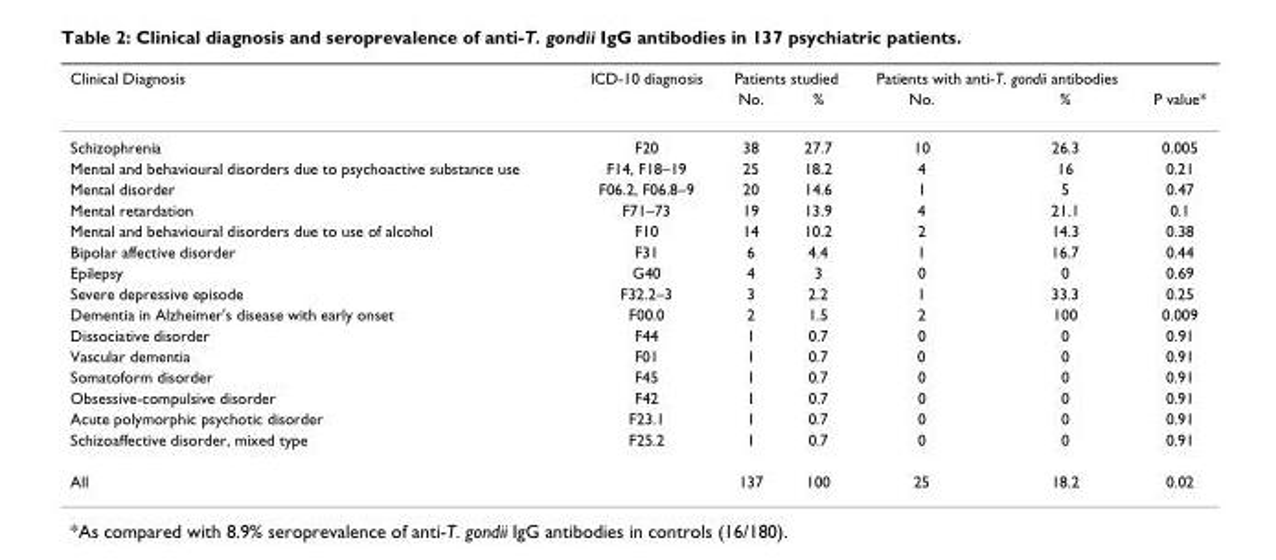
<table><thead><tr><td rowspan="2">Clinical Diagnosis</td><td rowspan="2">ICD-10 diagnosis</td><td colspan="2">Patients studied</td><td colspan="2">Patients with anti-T. gondii antibodies</td><td rowspan="2">P value*</td></tr><tr><td>No.</td><td>%</td><td>No.</td><td>%</td></tr></thead><tbody><tr><td>Schizophrenia</td><td>F20</td><td>38</td><td>27.7</td><td>10</td><td>26.3</td><td>0.005</td></tr><tr><td>Mental and behavioural disorders due to psychoactive substance use</td><td>F14, F18–19</td><td>25</td><td>18.2</td><td>4</td><td>16</td><td>0.21</td></tr><tr><td>Mental disorder</td><td>F06.2, F06.8–9</td><td>20</td><td>14.6</td><td>1</td><td>5</td><td>0.47</td></tr><tr><td>Mental retardation</td><td>F71–73</td><td>19</td><td>13.9</td><td>4</td><td>21.1</td><td>0.1</td></tr><tr><td>Mental and behavioural disorders due to use of alcohol</td><td>F10</td><td>14</td><td>10.2</td><td>2</td><td>14.3</td><td>0.38</td></tr><tr><td>Bipolar affective disorder</td><td>F31</td><td>6</td><td>4.4</td><td>1</td><td>16.7</td><td>0.44</td></tr><tr><td>Epilepsy</td><td>G40</td><td>4</td><td>3</td><td>0</td><td>0</td><td>0.69</td></tr><tr><td>Severe depressive episode</td><td>F32.2–3</td><td>3</td><td>2.2</td><td>1</td><td>33.3</td><td>0.25</td></tr><tr><td>Dementia in Alzheimer&#x27;s disease with early onset</td><td>F00.0</td><td>2</td><td>1.5</td><td>2</td><td>100</td><td>0.009</td></tr><tr><td>Dissociative disorder</td><td>F44</td><td>1</td><td>0.7</td><td>0</td><td>0</td><td>0.91</td></tr><tr><td>Vascular dementia</td><td>F01</td><td>1</td><td>0.7</td><td>0</td><td>0</td><td>0.91</td></tr><tr><td>Somatoform disorder</td><td>F45</td><td>1</td><td>0.7</td><td>0</td><td>0</td><td>0.91</td></tr><tr><td>Obsessive-compulsive disorder</td><td>F42</td><td>1</td><td>0.7</td><td>0</td><td>0</td><td>0.91</td></tr><tr><td>Acute polymorphic psychotic disorder</td><td>F23.1</td><td>1</td><td>0.7</td><td>0</td><td>0</td><td>0.91</td></tr><tr><td>Schizoaffective disorder, mixed type</td><td>F25.2</td><td>1</td><td>0.7</td><td>0</td><td>0</td><td>0.91</td></tr><tr><td>All</td><td></td><td>137</td><td>100</td><td>25</td><td>18.2</td><td>0.02</td></tr></tbody></table>